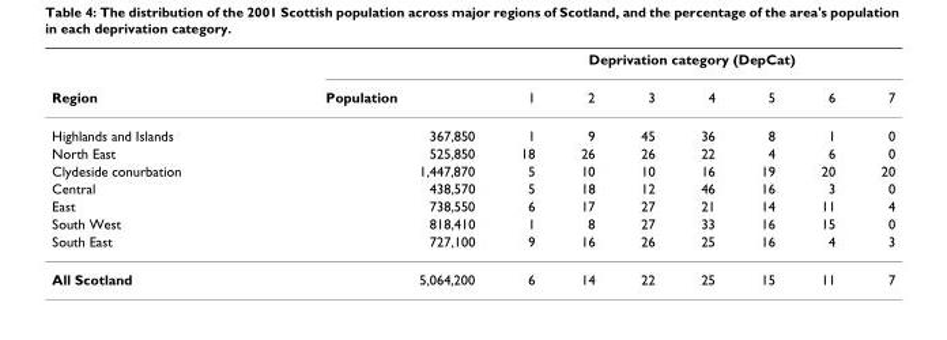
<table><thead><tr><td rowspan="2">Region</td><td rowspan="2">Population</td><td colspan="7">Deprivation category (DepCat)</td></tr><tr><td>1</td><td>2</td><td>3</td><td>4</td><td>5</td><td>6</td><td>7</td></tr></thead><tbody><tr><td>Highlands and Islands</td><td>367,850</td><td>1</td><td>9</td><td>45</td><td>36</td><td>8</td><td>1</td><td>0</td></tr><tr><td>North East</td><td>525,850</td><td>18</td><td>26</td><td>26</td><td>22</td><td>4</td><td>6</td><td>0</td></tr><tr><td>Clydeside conurbation</td><td>1,447,870</td><td>5</td><td>10</td><td>10</td><td>16</td><td>19</td><td>20</td><td>20</td></tr><tr><td>Central</td><td>438,570</td><td>5</td><td>18</td><td>12</td><td>46</td><td>16</td><td>3</td><td>0</td></tr><tr><td>East</td><td>738,550</td><td>6</td><td>17</td><td>27</td><td>21</td><td>14</td><td>11</td><td>4</td></tr><tr><td>South West</td><td>818,410</td><td>1</td><td>8</td><td>27</td><td>33</td><td>16</td><td>15</td><td>0</td></tr><tr><td>South East</td><td>727,100</td><td>9</td><td>16</td><td>26</td><td>25</td><td>16</td><td>4</td><td>3</td></tr><tr><td>All Scotland</td><td>5,064,200</td><td>6</td><td>14</td><td>22</td><td>25</td><td>15</td><td>11</td><td>7</td></tr></tbody></table>